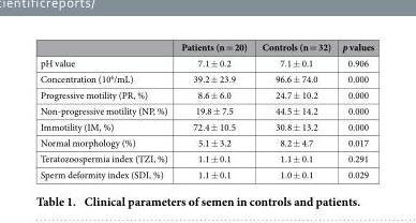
<table><thead><tr><td></td><td>Patients (n = 20)</td><td>Controls (n = 32)</td><td>p values</td></tr></thead><tbody><tr><td>pH value</td><td>7.1 ± 0.2</td><td>7.1 ± 0.1</td><td>0.906</td></tr><tr><td>Concentration (10<sup>6</sup>/mL)</td><td>39.2 ± 23.9</td><td>96.6 ± 74.0</td><td>0.000</td></tr><tr><td>Progressive motility (PR, %)</td><td>8.6 ± 6.0</td><td>24.7 ± 10.2</td><td>0.000</td></tr><tr><td>Non-progressive motility (NP, %)</td><td>19.8 ± 7.5</td><td>44.5 ± 14.2</td><td>0.000</td></tr><tr><td>Immotility (IM, %)</td><td>72.4 ± 10.5</td><td>30.8 ± 13.2</td><td>0.000</td></tr><tr><td>Normal morphology (%)</td><td>5.1 ± 3.2</td><td>8.2 ± 4.7</td><td>0.017</td></tr><tr><td>Teratozoospermia index (TZI, %)</td><td>1.1 ± 0.1</td><td>1.1 ± 0.1</td><td>0.291</td></tr><tr><td>Sperm deformity index (SDI, %)</td><td>1.1 ± 0.1</td><td>1.0 ± 0.1</td><td>0.029</td></tr></tbody></table>